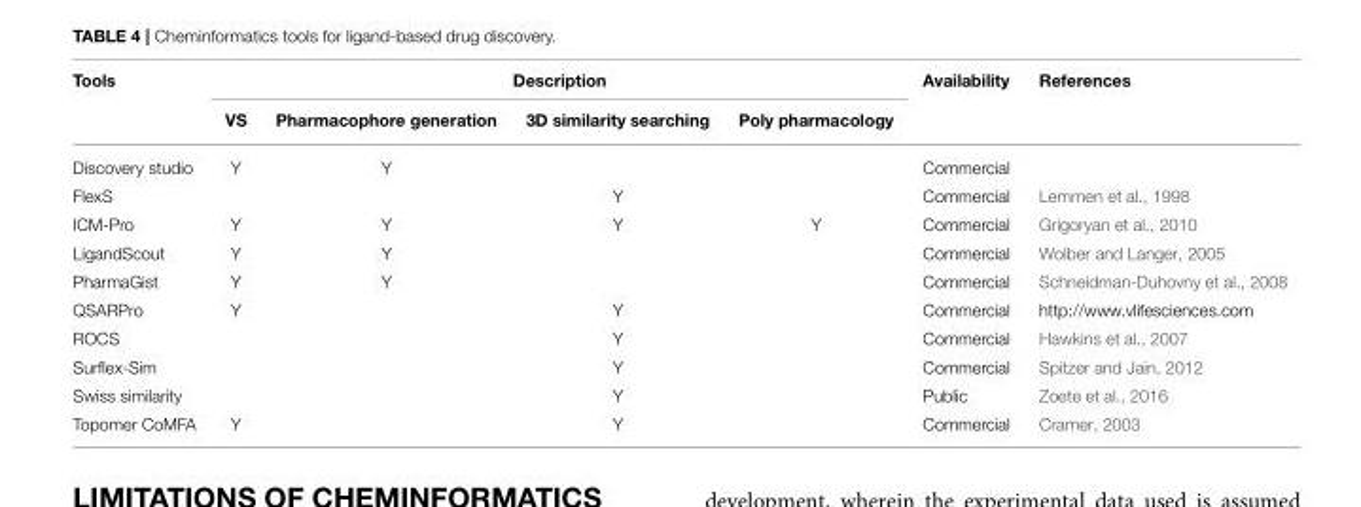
<table><thead><tr><td rowspan="2">Tools</td><td colspan="4">Description</td><td rowspan="2">Availability</td><td rowspan="2">References</td></tr><tr><td>VS</td><td>Pharmacophore generation</td><td>3D similarity searching</td><td>Poly pharmacology</td></tr></thead><tbody><tr><td>Discovery studio</td><td>Y</td><td>Y</td><td></td><td></td><td>Commercial</td><td></td></tr><tr><td>FlexS</td><td></td><td></td><td>Y</td><td></td><td>Commercial</td><td>Lemmen et al., 1998</td></tr><tr><td>ICM-Pro</td><td>Y</td><td>Y</td><td>Y</td><td>Y</td><td>Commercial</td><td>Grigoryan et al., 2010</td></tr><tr><td>LigandScout</td><td>Y</td><td>Y</td><td></td><td></td><td>Commercial</td><td>Wolber and Langer, 2005</td></tr><tr><td>PharmaGist</td><td>Y</td><td>Y</td><td></td><td></td><td>Commercial</td><td>Schneidman-Duhovny et al., 2008</td></tr><tr><td>QSARPro</td><td>Y</td><td></td><td>Y</td><td></td><td>Commercial</td><td>http://www.vlifesciences.com</td></tr><tr><td>ROCS</td><td></td><td></td><td>Y</td><td></td><td>Commercial</td><td>Hawkins et al., 2007</td></tr><tr><td>Surflex-Sim</td><td></td><td></td><td>Y</td><td></td><td>Commercial</td><td>Spitzer and Jain, 2012</td></tr><tr><td>Swiss similarity</td><td></td><td></td><td>Y</td><td></td><td>Public</td><td>Zoete et al., 2016</td></tr><tr><td>Topomer CoMFA</td><td>Y</td><td></td><td>Y</td><td></td><td>Commercial</td><td>Cramer, 2003</td></tr></tbody></table>